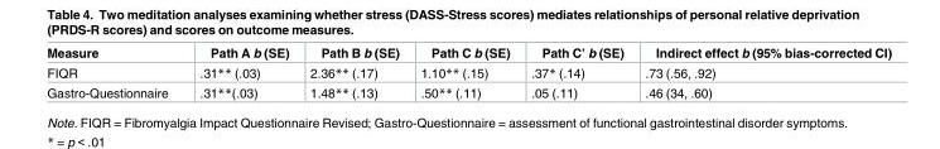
<table><thead><tr><td>Measure</td><td>Path A b (SE)</td><td>Path B b (SE)</td><td>Path C b (SE)</td><td>Path C’ b (SE)</td><td>Indirect effect b (95% bias-corrected CI)</td></tr></thead><tbody><tr><td>FIQR</td><td>.31** (.03)</td><td>2.36** (.17)</td><td>1.10** (.15)</td><td>.37* (.14)</td><td>.73 (.56, .92)</td></tr><tr><td>Gastro-Questionnaire</td><td>.31**(.03)</td><td>1.48** (.13)</td><td>.50** (.11)</td><td>.05 (.11)</td><td>.46 (34, .60)</td></tr></tbody></table>